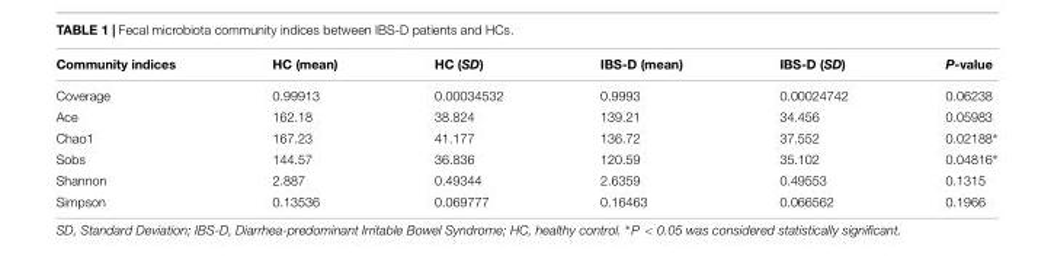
<table><thead><tr><td>Community indices</td><td>HC (mean)</td><td>HC (SD)</td><td>IBS-D (mean)</td><td>IBS-D (SD)</td><td>P-value</td></tr></thead><tbody><tr><td>Coverage</td><td>0.99913</td><td>0.00034532</td><td>0.9993</td><td>0.00024742</td><td>0.06238</td></tr><tr><td>Ace</td><td>162.18</td><td>38.824</td><td>139.21</td><td>34.456</td><td>0.05983</td></tr><tr><td>Chao1</td><td>167.23</td><td>41.177</td><td>136.72</td><td>37.552</td><td>0.02188∗</td></tr><tr><td>Sobs</td><td>144.57</td><td>36.836</td><td>120.59</td><td>35.102</td><td>0.04816∗</td></tr><tr><td>Shannon</td><td>2.887</td><td>0.49344</td><td>2.6359</td><td>0.49553</td><td>0.1315</td></tr><tr><td>Simpson</td><td>0.13536</td><td>0.069777</td><td>0.16463</td><td>0.066562</td><td>0.1966</td></tr></tbody></table>